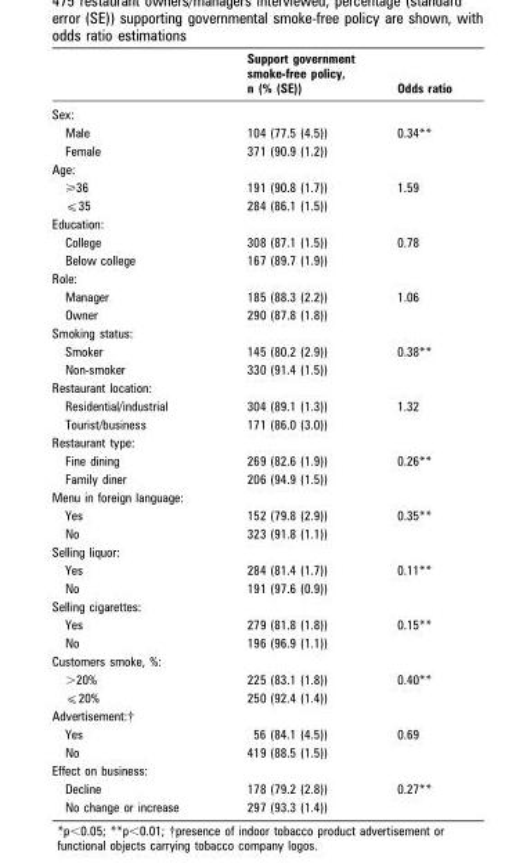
<table><thead><tr><td></td><td>Support government smoke-free policy, n (% (SE))</td><td>Odds ratio</td></tr></thead><tbody><tr><td colspan="3">Sex:</td></tr><tr><td>Male</td><td>104 (77.5 (4.5))</td><td>0.34**</td></tr><tr><td>Female</td><td>371 (90.9 (1.2))</td><td></td></tr><tr><td colspan="3">Age:</td></tr><tr><td>&gt;36</td><td>191 (90.8 (1.7))</td><td>1.59</td></tr><tr><td>⩽35</td><td>284 (86.1 (1.5))</td><td></td></tr><tr><td colspan="3">Education:</td></tr><tr><td>College</td><td>308 (87.1 (1.5))</td><td>0.78</td></tr><tr><td>Below college</td><td>167 (89.7 (1.9))</td><td></td></tr><tr><td colspan="3">Role:</td></tr><tr><td>Manager</td><td>185 (88.3 (2.2))</td><td>1.06</td></tr><tr><td>Owner</td><td>290 (87.8 (1.8))</td><td></td></tr><tr><td colspan="3">Smoking status:</td></tr><tr><td>Smoker</td><td>145 (80.2 (2.9))</td><td>0.38**</td></tr><tr><td>Non-smoker</td><td>330 (91.4 (1.5))</td><td></td></tr><tr><td colspan="3">Restaurant location:</td></tr><tr><td>Residential/industrial</td><td>304 (89.1 (1.3))</td><td>1.32</td></tr><tr><td>Tourist/business</td><td>171 (86.0 (3.0))</td><td></td></tr><tr><td colspan="3">Restaurant type:</td></tr><tr><td>Fine dining</td><td>269 (82.6 (1.9))</td><td>0.26**</td></tr><tr><td>Family diner</td><td>206 (94.9 (1.5))</td><td></td></tr><tr><td colspan="3">Menu in foreign language:</td></tr><tr><td>Yes</td><td>152 (79.8 (2.9))</td><td>0.35**</td></tr><tr><td>No</td><td>323 (91.8 (1.1))</td><td></td></tr><tr><td colspan="3">Selling liquor:</td></tr><tr><td>Yes</td><td>284 (81.4 (1.7))</td><td>0.11**</td></tr><tr><td>No</td><td>191 (97.6 (0.9))</td><td></td></tr><tr><td colspan="3">Selling cigarettes:</td></tr><tr><td>Yes</td><td>279 (81.8 (1.8))</td><td>0.15**</td></tr><tr><td>No</td><td>196 (96.9 (1.1))</td><td></td></tr><tr><td colspan="3">Customers smoke, %:</td></tr><tr><td>&gt;20%</td><td>225 (83.1 (1.8))</td><td>0.40**</td></tr><tr><td>⩽20%</td><td>250 (92.4 (1.4))</td><td></td></tr><tr><td colspan="3">Advertisement:†</td></tr><tr><td>Yes</td><td>56 (84.1 (4.5))</td><td>0.69</td></tr><tr><td>No</td><td>419 (88.5 (1.5))</td><td></td></tr><tr><td colspan="3">Effect on business:</td></tr><tr><td>Decline</td><td>178 (79.2 (2.8))</td><td>0.27**</td></tr><tr><td>No change or increase</td><td>297 (93.3 (1.4))</td><td></td></tr></tbody></table>